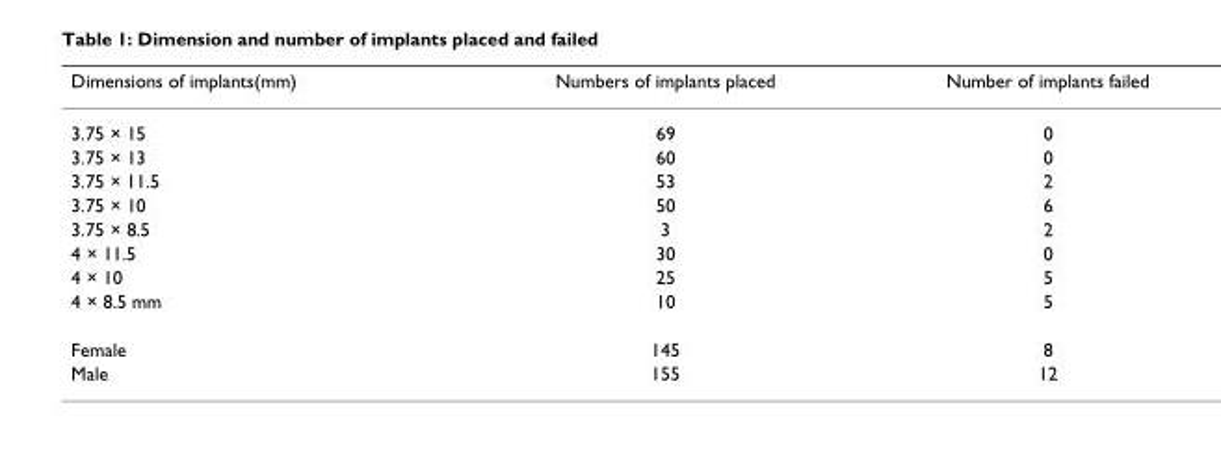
<table><thead><tr><td>Dimensions of implants(mm)</td><td>Numbers of implants placed</td><td>Number of implants failed</td></tr></thead><tbody><tr><td>3.75 × 15</td><td>69</td><td>0</td></tr><tr><td>3.75 × 13</td><td>60</td><td>0</td></tr><tr><td>3.75 × 11.5</td><td>53</td><td>2</td></tr><tr><td>3.75 × 10</td><td>50</td><td>6</td></tr><tr><td>3.75 × 8.5</td><td>3</td><td>2</td></tr><tr><td>4 × 11.5</td><td>30</td><td>0</td></tr><tr><td>4 × 10</td><td>25</td><td>5</td></tr><tr><td>4 × 8.5 mm</td><td>10</td><td>5</td></tr><tr><td>Female</td><td>145</td><td>8</td></tr><tr><td>Male</td><td>155</td><td>12</td></tr></tbody></table>